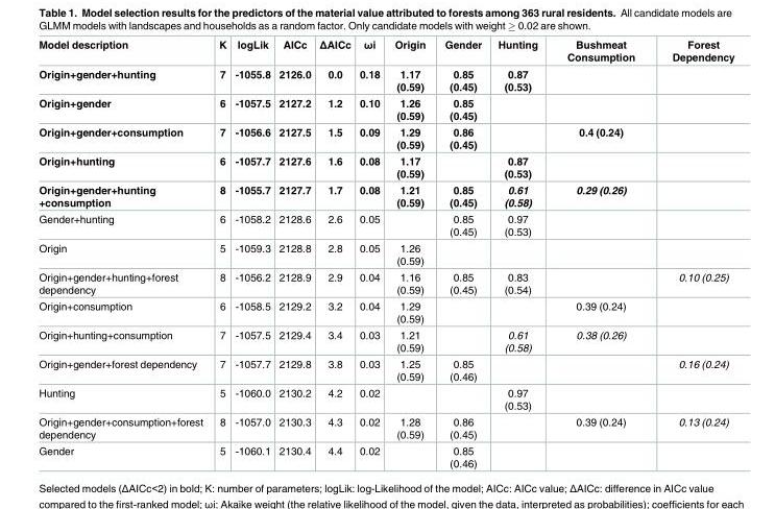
<table><thead><tr><td>Model description</td><td>K</td><td>logLik</td><td>AICc</td><td>ΔAICc</td><td>ωi</td><td>Origin</td><td>Gender</td><td>Hunting</td><td>Bushmeat Consumption</td><td>Forest Dependency</td></tr></thead><tbody><tr><td>Origin+gender+hunting</td><td>7</td><td>-1055.8</td><td>2126.0</td><td>0.0</td><td>0.18</td><td>1.17 (0.59)</td><td>0.85 (0.45)</td><td>0.87 (0.53)</td><td></td><td></td></tr><tr><td>Origin+gender</td><td>6</td><td>-1057.5</td><td>2127.2</td><td>1.2</td><td>0.10</td><td>1.26 (0.59)</td><td>0.85 (0.45)</td><td></td><td></td><td></td></tr><tr><td>Origin+gender+consumption</td><td>7</td><td>-1056.6</td><td>2127.5</td><td>1.5</td><td>0.09</td><td>1.29 (0.59)</td><td>0.86 (0.45)</td><td></td><td>0.4 (0.24)</td><td></td></tr><tr><td>Origin+hunting</td><td>6</td><td>-1057.7</td><td>2127.6</td><td>1.6</td><td>0.08</td><td>1.17 (0.59)</td><td></td><td>0.87 (0.53)</td><td></td><td></td></tr><tr><td>Origin+gender+hunting +consumption</td><td>8</td><td>-1055.7</td><td>2127.7</td><td>1.7</td><td>0.08</td><td>1.21 (0.59)</td><td>0.85 (0.45)</td><td>0.61 (0.58)</td><td>0.29 (0.26)</td><td></td></tr><tr><td>Gender+hunting</td><td>6</td><td>-1058.2</td><td>2128.6</td><td>2.6</td><td>0.05</td><td></td><td>0.85 (0.45)</td><td>0.97 (0.53)</td><td></td><td></td></tr><tr><td>Origin</td><td>5</td><td>-1059.3</td><td>2128.8</td><td>2.8</td><td>0.05</td><td>1.26 (0.59)</td><td></td><td></td><td></td><td></td></tr><tr><td>Origin+gender+hunting+forest dependency</td><td>8</td><td>-1056.2</td><td>2128.9</td><td>2.9</td><td>0.04</td><td>1.16 (0.59)</td><td>0.85 (0.45)</td><td>0.83 (0.54)</td><td></td><td>0.10 (0.25)</td></tr><tr><td>Origin+consumption</td><td>6</td><td>-1058.5</td><td>2129.2</td><td>3.2</td><td>0.04</td><td>1.29 (0.59)</td><td></td><td></td><td>0.39 (0.24)</td><td></td></tr><tr><td>Origin+hunting+consumption</td><td>7</td><td>-1057.5</td><td>2129.4</td><td>3.4</td><td>0.03</td><td>1.21 (0.59)</td><td></td><td>0.61 (0.58)</td><td>0.38 (0.26)</td><td></td></tr><tr><td>Origin+gender+forest dependency</td><td>7</td><td>-1057.7</td><td>2129.8</td><td>3.8</td><td>0.03</td><td>1.25 (0.59)</td><td>0.85 (0.46)</td><td></td><td></td><td>0.16 (0.24)</td></tr><tr><td>Hunting</td><td>5</td><td>-1060.0</td><td>2130.2</td><td>4.2</td><td>0.02</td><td></td><td></td><td>0.97 (0.53)</td><td></td><td></td></tr><tr><td>Origin+gender+consumption+forest dependency</td><td>8</td><td>-1057.0</td><td>2130.3</td><td>4.3</td><td>0.02</td><td>1.28 (0.59)</td><td>0.86 (0.45)</td><td></td><td>0.39 (0.24)</td><td>0.13 (0.24)</td></tr><tr><td>Gender</td><td>5</td><td>-1060.1</td><td>2130.4</td><td>4.4</td><td>0.02</td><td></td><td>0.85 (0.46)</td><td></td><td></td><td></td></tr></tbody></table>